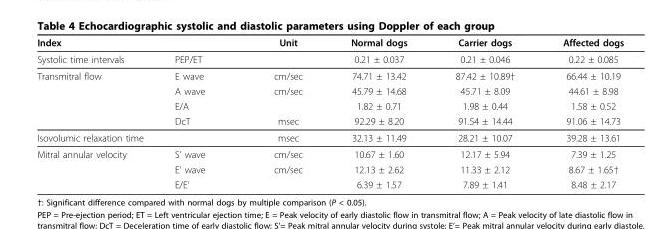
<table><thead><tr><td colspan="2">Index</td><td rowspan="2">Unit</td><td rowspan="2">Normal dogs 0.21 ± 0.037</td><td rowspan="2">Carrier dogs 0.21 ± 0.046</td><td rowspan="2">Affected dogs 0.22 ± 0.085</td></tr><tr><td>Systolic time intervals</td><td>PEP/ET</td></tr></thead><tbody><tr><td rowspan="4">Transmitral flow</td><td>E wave</td><td>cm/sec</td><td>74.71 ± 13.42</td><td>87.42 ± 10.89†</td><td>66.44 ± 10.19</td></tr><tr><td>A wave</td><td>cm/sec</td><td>45.79 ± 14.68</td><td>45.71 ± 8.09</td><td>44.61 ± 8.98</td></tr><tr><td>E/A</td><td></td><td>1.82 ± 0.71</td><td>1.98 ± 0.44</td><td>1.58 ± 0.52</td></tr><tr><td>DcT</td><td>msec</td><td>92.29 ± 8.20</td><td>91.54 ± 14.44</td><td>91.06 ± 14.73</td></tr><tr><td colspan="2">Isovolumic relaxation time</td><td>msec</td><td>32.13 ± 11.49</td><td>28.21 ± 10.07</td><td>39.28 ± 13.61</td></tr><tr><td rowspan="3">Mitral annular velocity</td><td>S’ wave</td><td>cm/sec</td><td>10.67 ± 1.60</td><td>12.17 ± 5.94</td><td>7.39 ± 1.25</td></tr><tr><td>E’ wave</td><td>cm/sec</td><td>12.13 ± 2.62</td><td>11.33 ± 2.12</td><td>8.67 ± 1.65†</td></tr><tr><td>E/E’</td><td></td><td>6.39 ± 1.57</td><td>7.89 ± 1.41</td><td>8.48 ± 2.17</td></tr></tbody></table>